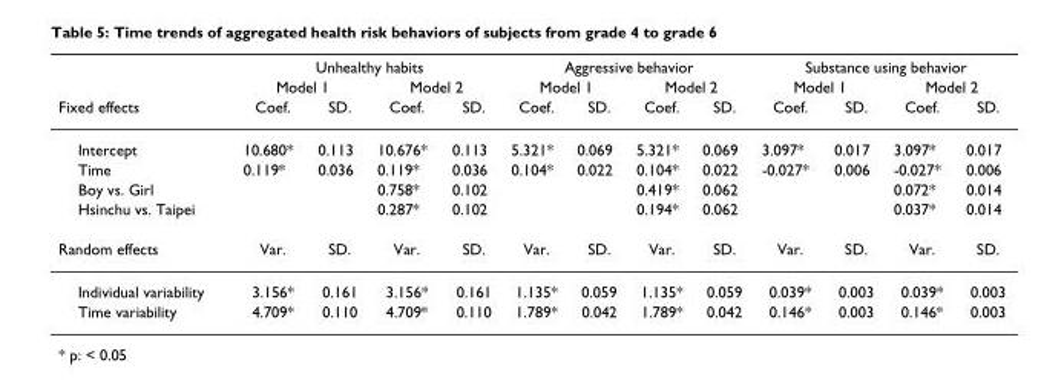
<table><thead><tr><td rowspan="3">Fixed effects</td><td colspan="4">Unhealthy habits</td><td colspan="4">Aggressive behavior</td><td colspan="4">Substance using behavior</td></tr><tr><td colspan="2">Model 1</td><td colspan="2">Model 2</td><td colspan="2">Model 1</td><td colspan="2">Model 2</td><td colspan="2">Model 1</td><td colspan="2">Model 2</td></tr><tr><td>Coef.</td><td>SD.</td><td>Coef.</td><td>SD.</td><td>Coef.</td><td>SD.</td><td>Coef.</td><td>SD.</td><td>Coef.</td><td>SD.</td><td>Coef.</td><td>SD.</td></tr></thead><tbody><tr><td>Intercept</td><td>10.680*</td><td>0.113</td><td>10.676*</td><td>0.113</td><td>5.321*</td><td>0.069</td><td>5.321*</td><td>0.069</td><td>3.097*</td><td>0.017</td><td>3.097*</td><td>0.017</td></tr><tr><td>Time</td><td>0.119*</td><td>0.036</td><td>0.119*</td><td>0.036</td><td>0.104*</td><td>0.022</td><td>0.104*</td><td>0.022</td><td>-0.027*</td><td>0.006</td><td>-0.027*</td><td>0.006</td></tr><tr><td>Boy vs. Girl</td><td></td><td></td><td>0.758*</td><td>0.102</td><td></td><td></td><td>0.419*</td><td>0.062</td><td></td><td></td><td>0.072*</td><td>0.014</td></tr><tr><td>Hsinchu vs. Taipei</td><td></td><td></td><td>0.287*</td><td>0.102</td><td></td><td></td><td>0.194*</td><td>0.062</td><td></td><td></td><td>0.037*</td><td>0.014</td></tr><tr><td>Random effects</td><td>Var.</td><td>SD.</td><td>Var.</td><td>SD.</td><td>Var.</td><td>SD.</td><td>Var.</td><td>SD.</td><td>Var.</td><td>SD.</td><td>Var.</td><td>SD.</td></tr><tr><td>Individual variability</td><td>3.156*</td><td>0.161</td><td>3.156*</td><td>0.161</td><td>1.135*</td><td>0.059</td><td>1.135*</td><td>0.059</td><td>0.039*</td><td>0.003</td><td>0.039*</td><td>0.003</td></tr><tr><td>Time variability</td><td>4.709*</td><td>0.110</td><td>4.709*</td><td>0.110</td><td>1.789*</td><td>0.042</td><td>1.789*</td><td>0.042</td><td>0.146*</td><td>0.003</td><td>0.146*</td><td>0.003</td></tr></tbody></table>